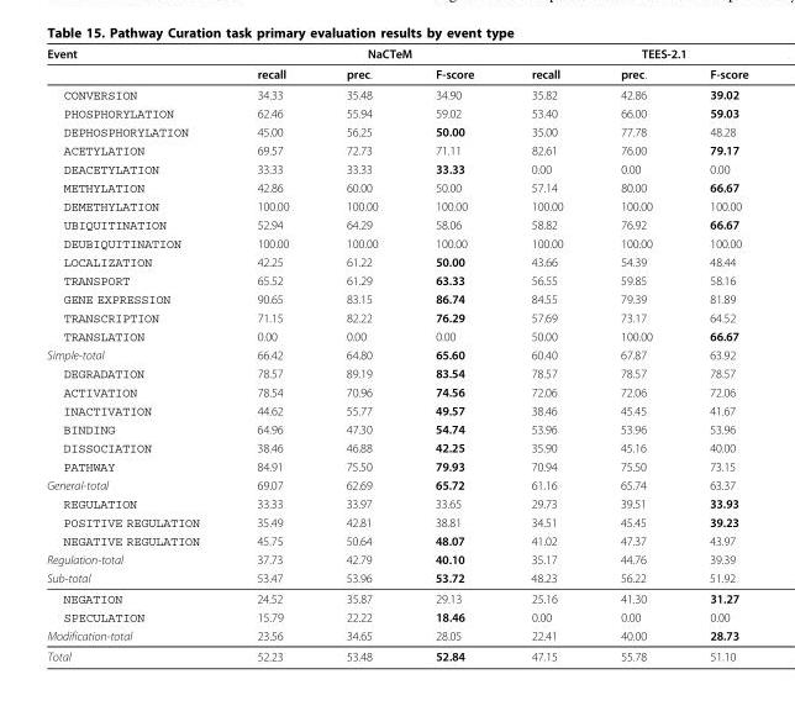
<table><thead><tr><td rowspan="2">Event</td><td colspan="3">NaCTeM</td><td colspan="3">TEES-2.1</td></tr><tr><td>recall</td><td>prec.</td><td>F-score</td><td>recall</td><td>prec.</td><td>F-score</td></tr></thead><tbody><tr><td>CONVERSION</td><td>34.33</td><td>35.48</td><td>34.90</td><td>35.82</td><td>42.86</td><td>39.02</td></tr><tr><td>PHOSPHORYLATION</td><td>62.46</td><td>55.94</td><td>59.02</td><td>53.40</td><td>66.00</td><td>59.03</td></tr><tr><td>DEPHOSPHORYLATION</td><td>45.00</td><td>56.25</td><td>50.00</td><td>35.00</td><td>77.78</td><td>48.28</td></tr><tr><td>ACETYLATION</td><td>69.57</td><td>72.73</td><td>71.11</td><td>82.61</td><td>76.00</td><td>79.17</td></tr><tr><td>DEACETYLATION</td><td>33.33</td><td>33.33</td><td>33.33</td><td>0.00</td><td>0.00</td><td>0.00</td></tr><tr><td>METHYLATION</td><td>42.86</td><td>60.00</td><td>50.00</td><td>57.14</td><td>80.00</td><td>66.67</td></tr><tr><td>DEMETHYLATION</td><td>100.00</td><td>100.00</td><td>100.00</td><td>100.00</td><td>100.00</td><td>100.00</td></tr><tr><td>UBIQUITINATION</td><td>52.94</td><td>64.29</td><td>58.06</td><td>58.82</td><td>76.92</td><td>66.67</td></tr><tr><td>DEUBIQUITINATION</td><td>100.00</td><td>100.00</td><td>100.00</td><td>100.00</td><td>100.00</td><td>100.00</td></tr><tr><td>LOCALIZATION</td><td>42.25</td><td>61.22</td><td>50.00</td><td>43.66</td><td>54.39</td><td>48.44</td></tr><tr><td>TRANSPORT</td><td>65.52</td><td>61.29</td><td>63.33</td><td>56.55</td><td>59.85</td><td>58.16</td></tr><tr><td>GENE EXPRESSION</td><td>90.65</td><td>83.15</td><td>86.74</td><td>84.55</td><td>79.39</td><td>81.89</td></tr><tr><td>TRANSCRIPTION</td><td>71.15</td><td>82.22</td><td>76.29</td><td>57.69</td><td>73.17</td><td>64.52</td></tr><tr><td>TRANSLATION</td><td>0.00</td><td>0.00</td><td>0.00</td><td>50.00</td><td>100.00</td><td>66.67</td></tr><tr><td>Simple-total</td><td>66.42</td><td>64.80</td><td>65.60</td><td>60.40</td><td>67.87</td><td>63.92</td></tr><tr><td>DEGRADATION</td><td>78.57</td><td>89.19</td><td>83.54</td><td>78.57</td><td>78.57</td><td>78.57</td></tr><tr><td>ACTIVATION</td><td>78.54</td><td>70.96</td><td>74.56</td><td>72.06</td><td>72.06</td><td>72.06</td></tr><tr><td>INACTIVATION</td><td>44.62</td><td>55.77</td><td>49.57</td><td>38.46</td><td>45.45</td><td>41.67</td></tr><tr><td>BINDING</td><td>64.96</td><td>47.30</td><td>54.74</td><td>53.96</td><td>53.96</td><td>53.96</td></tr><tr><td>DISSOCIATION</td><td>38.46</td><td>46.88</td><td>42.25</td><td>35.90</td><td>45.16</td><td>40.00</td></tr><tr><td>PATHWAY</td><td>84.91</td><td>75.50</td><td>79.93</td><td>70.94</td><td>75.50</td><td>73.15</td></tr><tr><td>General-total</td><td>69.07</td><td>62.69</td><td>65.72</td><td>61.16</td><td>65.74</td><td>63.37</td></tr><tr><td>REGULATION</td><td>33.33</td><td>33.97</td><td>33.65</td><td>29.73</td><td>39.51</td><td>33.93</td></tr><tr><td>POSITIVE REGULATION</td><td>35.49</td><td>42.81</td><td>38.81</td><td>34.51</td><td>45.45</td><td>39.23</td></tr><tr><td>NEGATIVE REGULATION</td><td>45.75</td><td>50.64</td><td>48.07</td><td>41.02</td><td>47.37</td><td>43.97</td></tr><tr><td>Regulation-total</td><td>37.73</td><td>42.79</td><td>40.10</td><td>35.17</td><td>44.76</td><td>39.39</td></tr><tr><td>Sub-total</td><td>53.47</td><td>53.96</td><td>53.72</td><td>48.23</td><td>56.22</td><td>51.92</td></tr><tr><td>NEGATION</td><td>24.52</td><td>35.87</td><td>29.13</td><td>25.16</td><td>41.30</td><td>31.27</td></tr><tr><td>SPECULATION</td><td>15.79</td><td>22.22</td><td>18.46</td><td>0.00</td><td>0.00</td><td>0.00</td></tr><tr><td>Modification-total</td><td>23.56</td><td>34.65</td><td>28.05</td><td>22.41</td><td>40.00</td><td>28.73</td></tr><tr><td>Total</td><td>52.23</td><td>53.48</td><td>52.84</td><td>47.15</td><td>55.78</td><td>51.10</td></tr></tbody></table>